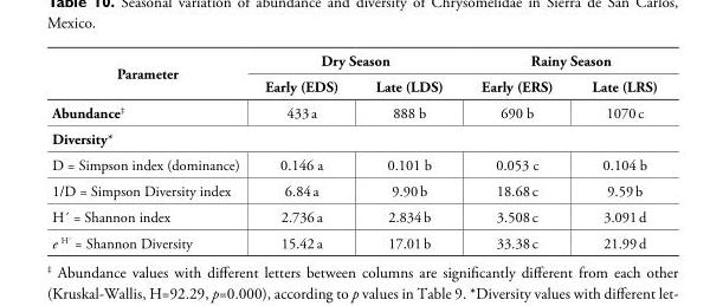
<table><thead><tr><td rowspan="2">Parameter</td><td colspan="2">Dry Season</td><td colspan="2">Rainy Season</td></tr><tr><td>Early (EDS)</td><td>Late (LDS)</td><td>Early (ERS)</td><td>Late (LRS)</td></tr></thead><tbody><tr><td>Abundance<sup>‡</sup></td><td>433 a</td><td>888 b</td><td>690 b</td><td>1070 c</td></tr><tr><td colspan="5">Diversity*</td></tr><tr><td>D = Simpson index (dominance)</td><td>0.146 a</td><td>0.101 b</td><td>0.053 c</td><td>0.104 b</td></tr><tr><td>1/D = Simpson Diversity index</td><td>6.84 a</td><td>9.90 b</td><td>18.68 c</td><td>9.59 b</td></tr><tr><td>H´ = Shannon index</td><td>2.736 a</td><td>2.834 b</td><td>3.508 c</td><td>3.091 d</td></tr><tr><td>e <sup>H´</sup> = Shannon Diversity</td><td>15.42 a</td><td>17.01 b</td><td>33.38 c</td><td>21.99 d</td></tr></tbody></table>